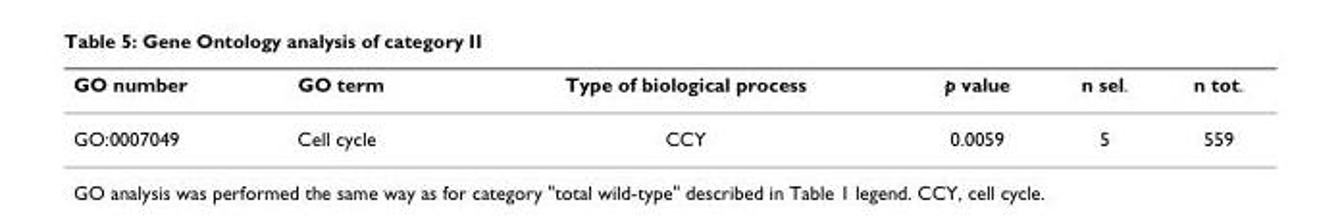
<table><thead><tr><td>GO number</td><td>GO term</td><td>Type of biological process</td><td>p value</td><td>n sel.</td><td>n tot.</td></tr></thead><tbody><tr><td>GO:0007049</td><td>Cell cycle</td><td>CCY</td><td>0.0059</td><td>5</td><td>559</td></tr></tbody></table>